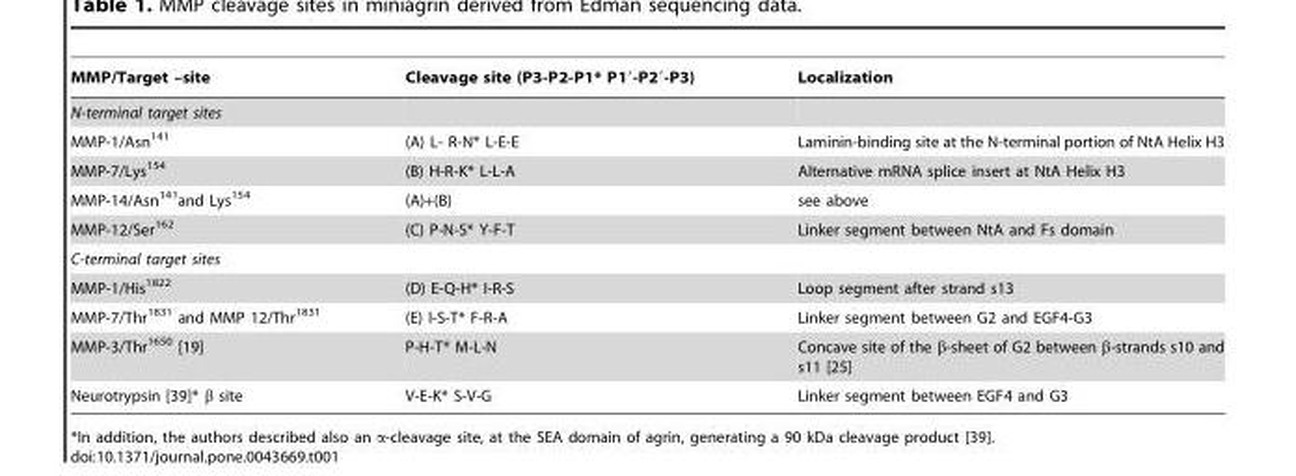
<table><thead><tr><td>MMP/Target –site</td><td>Cleavage site (P3-P2-P1* P1′-P2′-P3)</td><td>Localization</td></tr></thead><tbody><tr><td colspan="3">N-terminal target sites</td></tr><tr><td>MMP-1/Asn<sup>141</sup></td><td>(A) L- R-N* L-E-E</td><td>Laminin-binding site at the N-terminal portion of NtA Helix H3</td></tr><tr><td>MMP-7/Lys<sup>154</sup></td><td>(B) H-R-K* L-L-A</td><td>Alternative mRNA splice insert at NtA Helix H3</td></tr><tr><td>MMP-14/Asn<sup>141</sup>and Lys<sup>154</sup></td><td>(A)+(B)</td><td>see above</td></tr><tr><td>MMP-12/Ser<sup>162</sup></td><td>(C) P-N-S* Y-F-T</td><td>Linker segment between NtA and Fs domain</td></tr><tr><td colspan="3">C-terminal target sites</td></tr><tr><td>MMP-1/His<sup>1822</sup></td><td>(D) E-Q-H* I-R-S</td><td>Loop segment after strand s13</td></tr><tr><td>MMP-7/Thr<sup>1831</sup> and MMP 12/Thr<sup>1831</sup></td><td>(E) I-S-T* F-R-A</td><td>Linker segment between G2 and EGF4-G3</td></tr><tr><td>MMP-3/Thr<sup>1650</sup> [19]</td><td>P-H-T* M-L-N</td><td>Concave site of the β-sheet of G2 between β-strands s10 and s11 [25]</td></tr><tr><td>Neurotrypsin [39]* β site</td><td>V-E-K* S-V-G</td><td>Linker segment between EGF4 and G3</td></tr></tbody></table>